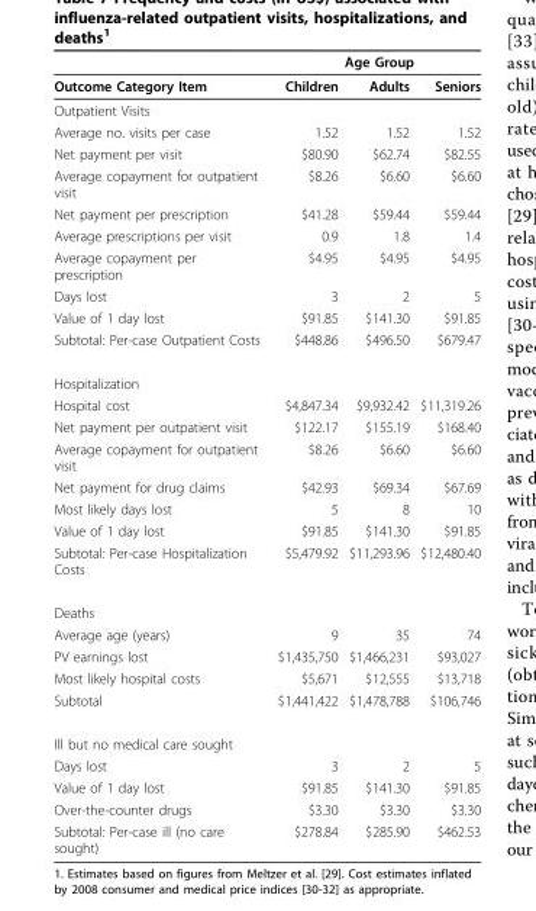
<table><thead><tr><td rowspan="2">Outcome Category Item</td><td colspan="3">Age Group</td></tr><tr><td>Children</td><td>Adults</td><td>Seniors</td></tr></thead><tbody><tr><td colspan="4">Outpatient Visits</td></tr><tr><td>Average no. visits per case</td><td>1.52</td><td>1.52</td><td>1.52</td></tr><tr><td>Net payment per visit</td><td>$80.90</td><td>$62.74</td><td>$82.55</td></tr><tr><td>Average copayment for outpatient visit</td><td>$8.26</td><td>$6.60</td><td>$6.60</td></tr><tr><td>Net payment per prescription</td><td>$41.28</td><td>$59.44</td><td>$59.44</td></tr><tr><td>Average prescriptions per visit</td><td>0.9</td><td>1.8</td><td>1.4</td></tr><tr><td>Average copayment per prescription</td><td>$4.95</td><td>$4.95</td><td>$4.95</td></tr><tr><td>Days lost</td><td>3</td><td>2</td><td>5</td></tr><tr><td>Value of 1 day lost</td><td>$91.85</td><td>$141.30</td><td>$91.85</td></tr><tr><td>Subtotal: Per-case Outpatient Costs</td><td>$448.86</td><td>$496.50</td><td>$679.47</td></tr><tr><td colspan="4">Hospitalization</td></tr><tr><td>Hospital cost</td><td>$4,847.34</td><td>$9,932.42</td><td>$11,319.26</td></tr><tr><td>Net payment per outpatient visit</td><td>$122.17</td><td>$155.19</td><td>$168.40</td></tr><tr><td>Average copayment for outpatient visit</td><td>$8.26</td><td>$6.60</td><td>$6.60</td></tr><tr><td>Net payment for drug claims</td><td>$42.93</td><td>$69.34</td><td>$67.69</td></tr><tr><td>Most likely days lost</td><td>5</td><td>8</td><td>10</td></tr><tr><td>Value of 1 day lost</td><td>$91.85</td><td>$141.30</td><td>$91.85</td></tr><tr><td>Subtotal: Per-case Hospitalization Costs</td><td>$5,479.92</td><td>$11,293.96</td><td>$12,480.40</td></tr><tr><td colspan="4">Deaths</td></tr><tr><td>Average age (years)</td><td>9</td><td>35</td><td>74</td></tr><tr><td>PV earnings lost</td><td>$1,435,750</td><td>$1,466,231</td><td>$93,027</td></tr><tr><td>Most likely hospital costs</td><td>$5,671</td><td>$12,555</td><td>$13,718</td></tr><tr><td>Subtotal</td><td>$1,441,422</td><td>$1,478,788</td><td>$106,746</td></tr><tr><td colspan="4">Ill but no medical care sought</td></tr><tr><td>Days lost</td><td>3</td><td>2</td><td>5</td></tr><tr><td>Value of 1 day lost</td><td>$91.85</td><td>$141.30</td><td>$91.85</td></tr><tr><td>Over-the-counter drugs</td><td>$3.30</td><td>$3.30</td><td>$3.30</td></tr><tr><td>Subtotal: Per-case ill (no care sought)</td><td>$278.84</td><td>$285.90</td><td>$462.53</td></tr></tbody></table>